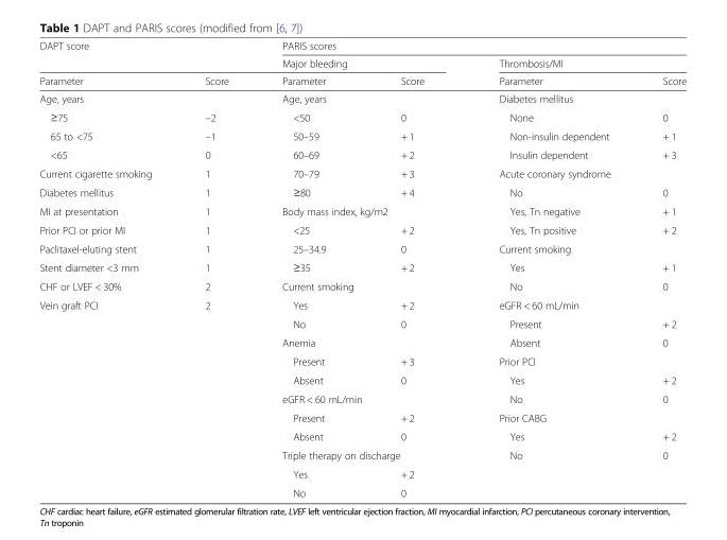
<table><thead><tr><td rowspan="2" colspan="2">DAPT score</td><td colspan="4">PARIS scores</td></tr><tr><td colspan="2">Major bleeding</td><td colspan="2">Thrombosis/MI</td></tr><tr><td>Parameter</td><td>Score</td><td>Parameter</td><td>Score</td><td>Parameter</td><td>Score</td></tr></thead><tbody><tr><td colspan="2">Age, years</td><td colspan="2">Age, years</td><td colspan="2">Diabetes mellitus</td></tr><tr><td>≥75</td><td>–2</td><td>&lt;50</td><td>0</td><td>None</td><td>0</td></tr><tr><td>65 to &lt;75</td><td>–1</td><td>50–59</td><td>+ 1</td><td>Non-insulin dependent</td><td>+ 1</td></tr><tr><td>&lt;65</td><td>0</td><td>60–69</td><td>+ 2</td><td>Insulin dependent</td><td>+ 3</td></tr><tr><td>Current cigarette smoking</td><td>1</td><td>70–79</td><td>+ 3</td><td colspan="2">Acute coronary syndrome</td></tr><tr><td>Diabetes mellitus</td><td>1</td><td>≥80</td><td>+ 4</td><td>No</td><td>0</td></tr><tr><td>MI at presentation</td><td>1</td><td colspan="2">Body mass index, kg/m2</td><td>Yes, Tn negative</td><td>+ 1</td></tr><tr><td>Prior PCI or prior MI</td><td>1</td><td>&lt;25</td><td>+ 2</td><td>Yes, Tn positive</td><td>+ 2</td></tr><tr><td>Paclitaxel-eluting stent</td><td>1</td><td>25–34.9</td><td>0</td><td colspan="2">Current smoking</td></tr><tr><td>Stent diameter &lt;3 mm</td><td>1</td><td>≥35</td><td>+ 2</td><td>Yes</td><td>+ 1</td></tr><tr><td>CHF or LVEF &lt; 30%</td><td>2</td><td colspan="2">Current smoking</td><td>No</td><td>0</td></tr><tr><td rowspan="11">Vein graft PCI</td><td>2</td><td>Yes</td><td>+ 2</td><td colspan="2">eGFR &lt; 60 mL/min</td></tr><tr><td></td><td>No</td><td>0</td><td>Present</td><td>+ 2</td></tr><tr><td></td><td colspan="2">Anemia</td><td>Absent</td><td>0</td></tr><tr><td></td><td>Present</td><td>+ 3</td><td colspan="2">Prior PCI</td></tr><tr><td></td><td>Absent</td><td>0</td><td>Yes</td><td>+ 2</td></tr><tr><td></td><td colspan="2">eGFR &lt; 60 mL/min</td><td>No</td><td>0</td></tr><tr><td></td><td>Present</td><td>+ 2</td><td colspan="2">Prior CABG</td></tr><tr><td></td><td>Absent</td><td>0</td><td>Yes</td><td>+ 2</td></tr><tr><td></td><td colspan="2">Triple therapy on discharge</td><td>No</td><td>0</td></tr><tr><td></td><td>Yes</td><td>+ 2</td><td></td><td></td></tr><tr><td></td><td>No</td><td>0</td><td></td><td></td></tr></tbody></table>